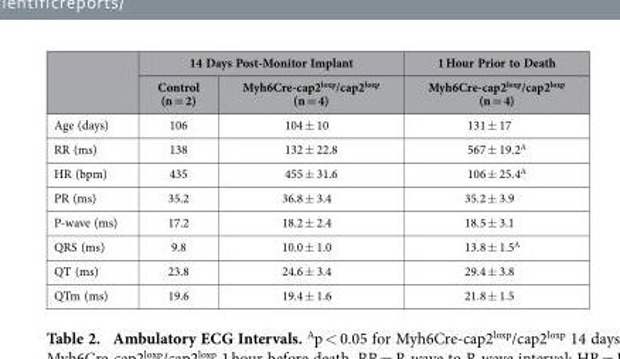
<table><thead><tr><td rowspan="2"></td><td colspan="2">14 Days Post-Monitor Implant</td><td rowspan="2">1 Hour Prior to Death Myh6Cre-cap2<sup>loxp</sup>/cap2<sup>loxp</sup> (n = 4)</td></tr><tr><td>Control (n = 2)</td><td>Myh6Cre-cap2<sup>loxp</sup>/cap2<sup>loxp</sup> (n = 4)</td></tr></thead><tbody><tr><td>Age (days)</td><td>106</td><td>104 ± 10</td><td>131 ± 17</td></tr><tr><td>RR (ms)</td><td>138</td><td>132 ± 22.8</td><td>567 ± 19.2<sup>A</sup></td></tr><tr><td>HR (bpm)</td><td>435</td><td>455 ± 31.6</td><td>106 ± 25.4<sup>A</sup></td></tr><tr><td>PR (ms)</td><td>35.2</td><td>36.8 ± 3.4</td><td>35.2 ± 3.9</td></tr><tr><td>P-wave (ms)</td><td>17.2</td><td>18.2 ± 2.4</td><td>18.5 ± 3.1</td></tr><tr><td>QRS (ms)</td><td>9.8</td><td>10.0 ± 1.0</td><td>13.8 ± 1.5<sup>A</sup></td></tr><tr><td>QT (ms)</td><td>23.8</td><td>24.6 ± 3.4</td><td>29.4 ± 3.8</td></tr><tr><td>QTm (ms)</td><td>19.6</td><td>19.4 ± 1.6</td><td>21.8 ± 1.5</td></tr></tbody></table>